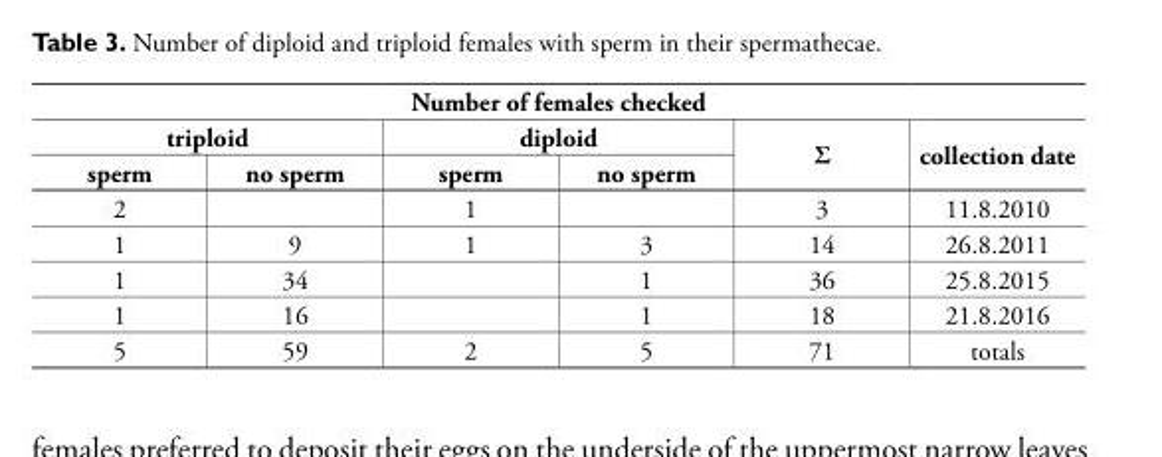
<table><thead><tr><td colspan="6">Number of females checked</td></tr><tr><td colspan="2">triploid</td><td colspan="2">diploid</td><td rowspan="2">Σ</td><td rowspan="2">collection date</td></tr><tr><td>sperm</td><td>no sperm</td><td>sperm</td><td>no sperm</td></tr></thead><tbody><tr><td>2</td><td></td><td>1</td><td></td><td>3</td><td>11.8.2010</td></tr><tr><td>1</td><td>9</td><td>1</td><td>3</td><td>14</td><td>26.8.2011</td></tr><tr><td>1</td><td>34</td><td></td><td>1</td><td>36</td><td>25.8.2015</td></tr><tr><td>1</td><td>16</td><td></td><td>1</td><td>18</td><td>21.8.2016</td></tr><tr><td>5</td><td>59</td><td>2</td><td>5</td><td>71</td><td>totals</td></tr></tbody></table>